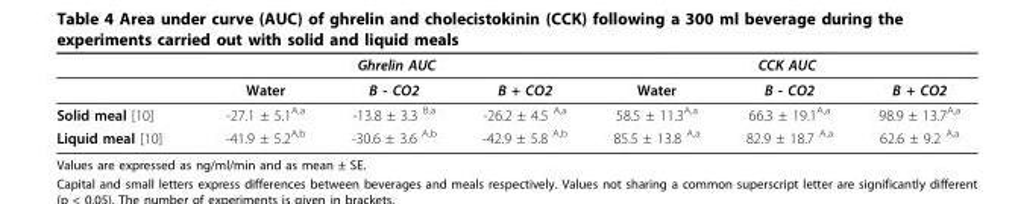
<table><thead><tr><td rowspan="2"></td><td colspan="3">Ghrelin AUC</td><td colspan="3">CCK AUC</td></tr><tr><td>Water</td><td>B - CO2</td><td>B + CO2</td><td>Water</td><td>B - CO2</td><td>B + CO2</td></tr></thead><tbody><tr><td>Solid meal [10]</td><td>-27.1 ± 5.1<sup>A,a</sup></td><td>-13.8 ± 3.3 <sup>B,a</sup></td><td>-26.2 ± 4.5 <sup>A,a</sup></td><td>58.5 ± 11.3<sup>A,a</sup></td><td>66.3 ± 19.1<sup>A,a</sup></td><td>98.9 ± 13.7<sup>A,a</sup></td></tr><tr><td>Liquid meal [10]</td><td>-41.9 ± 5.2<sup>A,b</sup></td><td>-30.6 ± 3.6 <sup>A,b</sup></td><td>-42.9 ± 5.8 <sup>A,b</sup></td><td>85.5 ± 13.8 <sup>A,a</sup></td><td>82.9 ± 18.7 <sup>A,a</sup></td><td>62.6 ± 9.2 <sup>A,a</sup></td></tr></tbody></table>